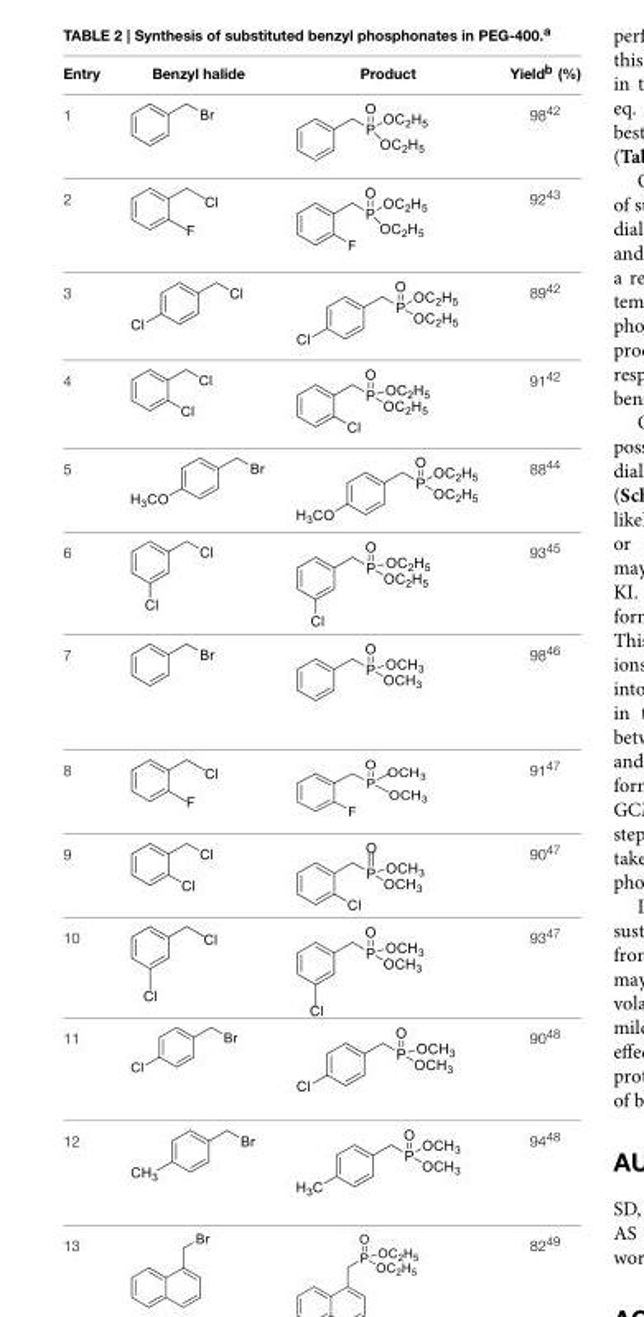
<table><thead><tr><td>Entry</td><td>Benzyl halide</td><td>Product</td><td>Yield<sup>b</sup> (%)</td></tr></thead><tbody><tr><td>1</td><td colspan="2"></td><td>98<sup>42</sup></td></tr><tr><td>2</td><td colspan="2"></td><td>92<sup>43</sup></td></tr><tr><td>3</td><td colspan="2"></td><td>89<sup>42</sup></td></tr><tr><td>4</td><td colspan="2"></td><td>91<sup>42</sup></td></tr><tr><td>5</td><td colspan="2"></td><td>88<sup>44</sup></td></tr><tr><td>6</td><td colspan="2"></td><td>93<sup>45</sup></td></tr><tr><td>7</td><td colspan="2"></td><td>98<sup>46</sup></td></tr><tr><td>8</td><td colspan="2"></td><td>91<sup>47</sup></td></tr><tr><td>9</td><td colspan="2"></td><td>90<sup>47</sup></td></tr><tr><td>10</td><td colspan="2"></td><td>93<sup>47</sup></td></tr><tr><td>11</td><td colspan="2"></td><td>90<sup>48</sup></td></tr><tr><td>12</td><td colspan="2"></td><td>94<sup>48</sup></td></tr><tr><td>13</td><td colspan="2"></td><td>82<sup>49</sup></td></tr></tbody></table>